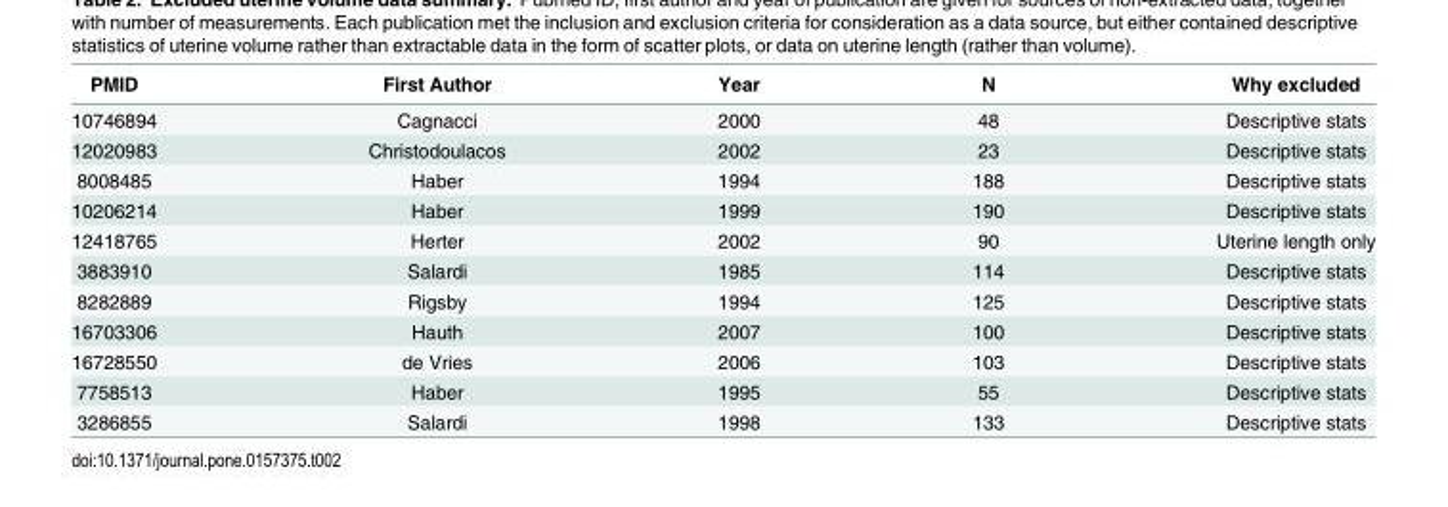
<table><thead><tr><td>PMID</td><td>First Author</td><td>Year</td><td>N</td><td>Why excluded</td></tr></thead><tbody><tr><td>10746894</td><td>Cagnacci</td><td>2000</td><td>48</td><td>Descriptive stats</td></tr><tr><td>12020983</td><td>Christodoulacos</td><td>2002</td><td>23</td><td>Descriptive stats</td></tr><tr><td>8008485</td><td>Haber</td><td>1994</td><td>188</td><td>Descriptive stats</td></tr><tr><td>10206214</td><td>Haber</td><td>1999</td><td>190</td><td>Descriptive stats</td></tr><tr><td>12418765</td><td>Herter</td><td>2002</td><td>90</td><td>Uterine length only</td></tr><tr><td>3883910</td><td>Salardi</td><td>1985</td><td>114</td><td>Descriptive stats</td></tr><tr><td>8282889</td><td>Rigsby</td><td>1994</td><td>125</td><td>Descriptive stats</td></tr><tr><td>16703306</td><td>Hauth</td><td>2007</td><td>100</td><td>Descriptive stats</td></tr><tr><td>16728550</td><td>de Vries</td><td>2006</td><td>103</td><td>Descriptive stats</td></tr><tr><td>7758513</td><td>Haber</td><td>1995</td><td>55</td><td>Descriptive stats</td></tr><tr><td>3286855</td><td>Salardi</td><td>1998</td><td>133</td><td>Descriptive stats</td></tr></tbody></table>